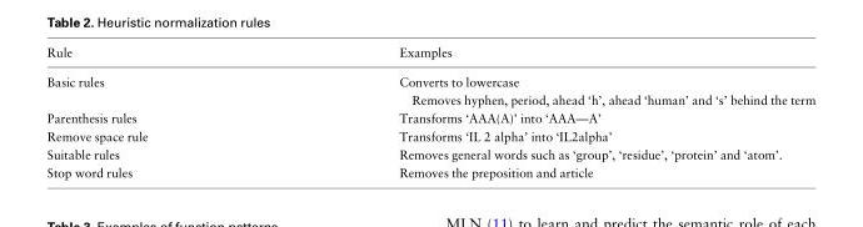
<table><thead><tr><td>Rule</td><td>Examples</td></tr></thead><tbody><tr><td>Basic rules</td><td>Converts to lowercase Removes hyphen, period, ahead ‘h’, ahead ‘human’ and ‘s’ behind the term</td></tr><tr><td>Parenthesis rules</td><td>Transforms ‘AAA(A)’ into ‘AAA—A’</td></tr><tr><td>Remove space rule</td><td>Transforms ‘IL 2 alpha’ into ‘IL2alpha’</td></tr><tr><td>Suitable rules</td><td>Removes general words such as ‘group’, ‘residue’, ‘protein’ and ‘atom’.</td></tr><tr><td>Stop word rules</td><td>Removes the preposition and article</td></tr></tbody></table>